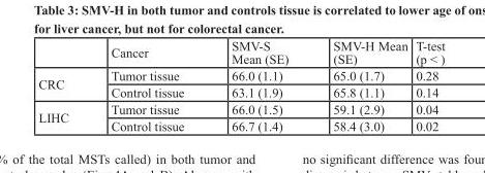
<table><thead><tr><td></td><td>Cancer</td><td>SMV-S Mean (SE)</td><td>SMV-H Mean (SE)</td><td>T-test (p &lt; )</td></tr></thead><tbody><tr><td rowspan="2">CRC</td><td>Tumor tissue</td><td>66.0 (1.1)</td><td>65.0 (1.7)</td><td>0.28</td></tr><tr><td>Control tissue</td><td>63.1 (1.9)</td><td>65.8 (1.1)</td><td>0.14</td></tr><tr><td rowspan="2">LIHC</td><td>Tumor tissue</td><td>66.0 (1.5)</td><td>59.1 (2.9)</td><td>0.04</td></tr><tr><td>Control tissue</td><td>66.7 (1.4)</td><td>58.4 (3.0)</td><td>0.02</td></tr></tbody></table>